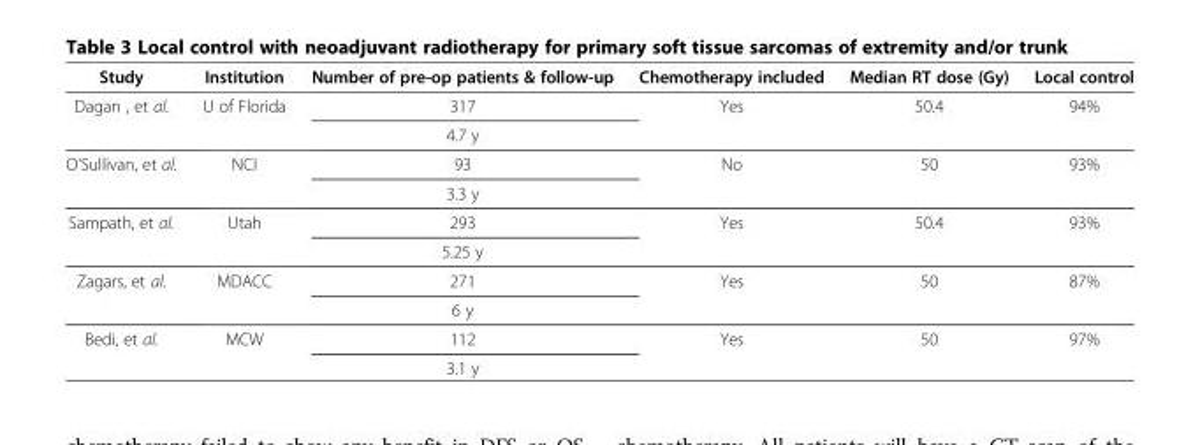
<table><thead><tr><td>Study</td><td>Institution</td><td>Number of pre-op patients &amp; follow-up</td><td>Chemotherapy included</td><td>Median RT dose (Gy)</td><td>Local control</td></tr></thead><tbody><tr><td rowspan="2">Dagan , et al.</td><td rowspan="2">U of Florida</td><td>317</td><td rowspan="2">Yes</td><td rowspan="2">50.4</td><td rowspan="2">94%</td></tr><tr><td>4.7 y</td></tr><tr><td rowspan="2">O&#x27;Sullivan, et al.</td><td rowspan="2">NCI</td><td>93</td><td rowspan="2">No</td><td rowspan="2">50</td><td rowspan="2">93%</td></tr><tr><td>3.3 y</td></tr><tr><td rowspan="2">Sampath, et al.</td><td>Utah</td><td>293</td><td>Yes</td><td>50.4</td><td>93%</td></tr><tr><td></td><td>5.25 y</td><td></td><td></td><td></td></tr><tr><td rowspan="2">Zagars, et al.</td><td>MDACC</td><td>271</td><td>Yes</td><td>50</td><td>87%</td></tr><tr><td></td><td>6 y</td><td></td><td></td><td></td></tr><tr><td rowspan="2">Bedi, et al.</td><td rowspan="2">MCW</td><td>112</td><td rowspan="2">Yes</td><td rowspan="2">50</td><td rowspan="2">97%</td></tr><tr><td>3.1 y</td></tr></tbody></table>